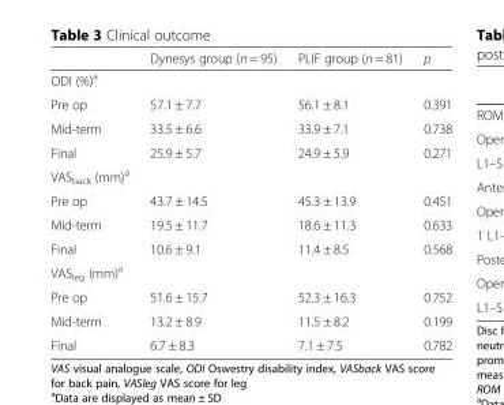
<table><thead><tr><td></td><td>Dynesys group (n = 95)</td><td>PLIF group (n = 81)</td><td>p</td></tr></thead><tbody><tr><td colspan="4">ODI (%)<sup>a</sup></td></tr><tr><td>Pre op</td><td>57.1 ± 7.7</td><td>56.1 ± 8.1</td><td>0.391</td></tr><tr><td>Mid-term</td><td>33.5 ± 6.6</td><td>33.9 ± 7.1</td><td>0.738</td></tr><tr><td>Final</td><td>25.9 ± 5.7</td><td>24.9 ± 5.9</td><td>0.271</td></tr><tr><td colspan="4">VAS<sub>back</sub> (mm)<sup>a</sup></td></tr><tr><td>Pre op</td><td>43.7 ± 14.5</td><td>45.3 ± 13.9</td><td>0.451</td></tr><tr><td>Mid-term</td><td>19.5 ± 11.7</td><td>18.6 ± 11.3</td><td>0.633</td></tr><tr><td>Final</td><td>10.6 ± 9.1</td><td>11.4 ± 8.5</td><td>0.568</td></tr><tr><td colspan="4">VAS<sub>leg</sub> (mm)<sup>a</sup></td></tr><tr><td>Pre op</td><td>51.6 ± 15.7</td><td>52.3 ± 16.3</td><td>0.752</td></tr><tr><td>Mid-term</td><td>13.2 ± 8.9</td><td>11.5 ± 8.2</td><td>0.199</td></tr><tr><td>Final</td><td>6.7 ± 8.3</td><td>7.1 ± 7.5</td><td>0.782</td></tr></tbody></table>